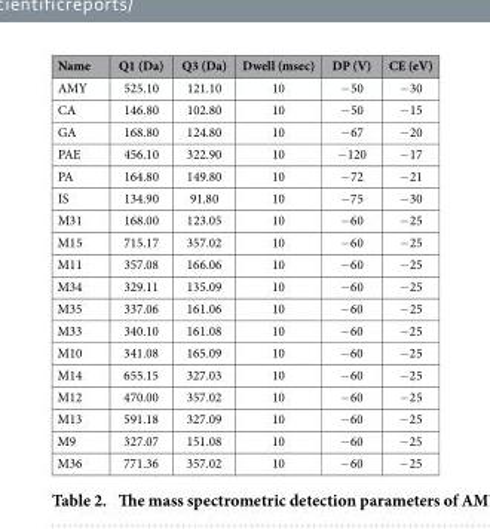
<table><thead><tr><td>Name</td><td>Q1 (Da)</td><td>Q3 (Da)</td><td>Dwell (msec)</td><td>DP (V)</td><td>CE (eV)</td></tr></thead><tbody><tr><td>AMY</td><td>525.10</td><td>121.10</td><td>10</td><td>− 50</td><td>− 30</td></tr><tr><td>CA</td><td>146.80</td><td>102.80</td><td>10</td><td>− 50</td><td>− 15</td></tr><tr><td>GA</td><td>168.80</td><td>124.80</td><td>10</td><td>− 67</td><td>− 20</td></tr><tr><td>PAE</td><td>456.10</td><td>322.90</td><td>10</td><td>− 120</td><td>− 17</td></tr><tr><td>PA</td><td>164.80</td><td>149.80</td><td>10</td><td>− 72</td><td>− 21</td></tr><tr><td>IS</td><td>134.90</td><td>91.80</td><td>10</td><td>− 75</td><td>− 30</td></tr><tr><td>M31</td><td>168.00</td><td>123.05</td><td>10</td><td>− 60</td><td>− 25</td></tr><tr><td>M15</td><td>715.17</td><td>357.02</td><td>10</td><td>− 60</td><td>− 25</td></tr><tr><td>M11</td><td>357.08</td><td>166.06</td><td>10</td><td>− 60</td><td>− 25</td></tr><tr><td>M34</td><td>329.11</td><td>135.09</td><td>10</td><td>− 60</td><td>− 25</td></tr><tr><td>M35</td><td>337.06</td><td>161.06</td><td>10</td><td>− 60</td><td>− 25</td></tr><tr><td>M33</td><td>340.10</td><td>161.08</td><td>10</td><td>− 60</td><td>− 25</td></tr><tr><td>M10</td><td>341.08</td><td>165.09</td><td>10</td><td>− 60</td><td>− 25</td></tr><tr><td>M14</td><td>655.15</td><td>327.03</td><td>10</td><td>− 60</td><td>− 25</td></tr><tr><td>M12</td><td>470.00</td><td>357.02</td><td>10</td><td>− 60</td><td>− 25</td></tr><tr><td>M13</td><td>591.18</td><td>327.09</td><td>10</td><td>− 60</td><td>− 25</td></tr><tr><td>M9</td><td>327.07</td><td>151.08</td><td>10</td><td>− 60</td><td>− 25</td></tr><tr><td>M36</td><td>771.36</td><td>357.02</td><td>10</td><td>− 60</td><td>− 25</td></tr></tbody></table>